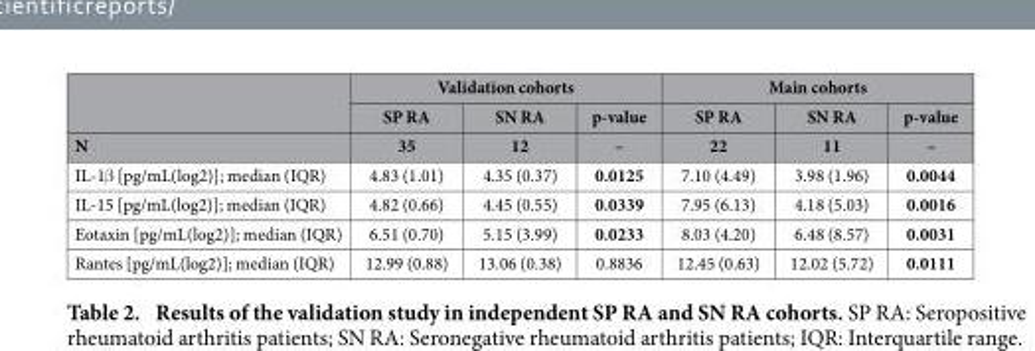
<table><thead><tr><td rowspan="3">N</td><td colspan="3">Validation cohorts</td><td colspan="3">Main cohorts</td></tr><tr><td rowspan="2">SP RA 35</td><td rowspan="2">SN RA 12</td><td rowspan="2">p-value –</td><td rowspan="2">SP RA 22</td><td rowspan="2">SN RA 11</td><td rowspan="2">p-value –</td></tr><tr></tr></thead><tbody><tr><td>IL-1β [pg/mL(log2)]; median (IQR)</td><td>4.83 (1.01)</td><td>4.35 (0.37)</td><td>0.0125</td><td>7.10 (4.49)</td><td>3.98 (1.96)</td><td>0.0044</td></tr><tr><td>IL-15 [pg/mL(log2)]; median (IQR)</td><td>4.82 (0.66)</td><td>4.45 (0.55)</td><td>0.0339</td><td>7.95 (6.13)</td><td>4.18 (5.03)</td><td>0.0016</td></tr><tr><td>Eotaxin [pg/mL(log2)]; median (IQR)</td><td>6.51 (0.70)</td><td>5.15 (3.99)</td><td>0.0233</td><td>8.03 (4.20)</td><td>6.48 (8.57)</td><td>0.0031</td></tr><tr><td>Rantes [pg/mL(log2)]; median (IQR)</td><td>12.99 (0.88)</td><td>13.06 (0.38)</td><td>0.8836</td><td>12.45 (0.63)</td><td>12.02 (5.72)</td><td>0.0111</td></tr></tbody></table>